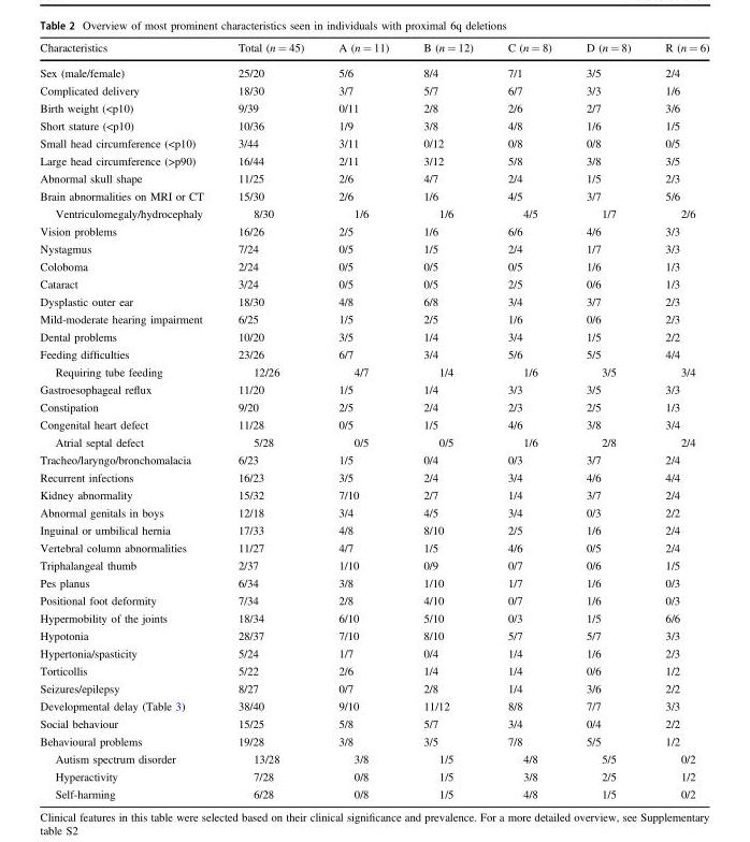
<table><thead><tr><td>Characteristics</td><td>Total (n = 45)</td><td>A (n = 11)</td><td>B (n = 12)</td><td>C (n = 8)</td><td>D (n = 8)</td><td>R (n = 6)</td></tr></thead><tbody><tr><td>Sex (male/female)</td><td>25/20</td><td>5/6</td><td>8/4</td><td>7/1</td><td>3/5</td><td>2/4</td></tr><tr><td>Complicated delivery</td><td>18/30</td><td>3/7</td><td>5/7</td><td>6/7</td><td>3/3</td><td>1/6</td></tr><tr><td>Birth weight (&lt;p10)</td><td>9/39</td><td>0/11</td><td>2/8</td><td>2/6</td><td>2/7</td><td>3/6</td></tr><tr><td>Short stature (&lt;p10)</td><td>10/36</td><td>1/9</td><td>3/8</td><td>4/8</td><td>1/6</td><td>1/5</td></tr><tr><td>Small head circumference (&lt;p10)</td><td>3/44</td><td>3/11</td><td>0/12</td><td>0/8</td><td>0/8</td><td>0/5</td></tr><tr><td>Large head circumference (&gt;p90)</td><td>16/44</td><td>2/11</td><td>3/12</td><td>5/8</td><td>3/8</td><td>3/5</td></tr><tr><td>Abnormal skull shape</td><td>11/25</td><td>2/6</td><td>4/7</td><td>2/4</td><td>1/5</td><td>2/3</td></tr><tr><td>Brain abnormalities on MRI or CT</td><td>15/30</td><td>2/6</td><td>1/6</td><td>4/5</td><td>3/7</td><td>5/6</td></tr><tr><td>Ventriculomegaly/hydrocephaly</td><td>8/30</td><td>1/6</td><td>1/6</td><td>4/5</td><td>1/7</td><td>2/6</td></tr><tr><td>Vision problems</td><td>16/26</td><td>2/5</td><td>1/6</td><td>6/6</td><td>4/6</td><td>3/3</td></tr><tr><td>Nystagmus</td><td>7/24</td><td>0/5</td><td>1/5</td><td>2/4</td><td>1/7</td><td>3/3</td></tr><tr><td>Coloboma</td><td>2/24</td><td>0/5</td><td>0/5</td><td>0/5</td><td>1/6</td><td>1/3</td></tr><tr><td>Cataract</td><td>3/24</td><td>0/5</td><td>0/5</td><td>2/5</td><td>0/6</td><td>1/3</td></tr><tr><td>Dysplastic outer ear</td><td>18/30</td><td>4/8</td><td>6/8</td><td>3/4</td><td>3/7</td><td>2/3</td></tr><tr><td>Mild-moderate hearing impairment</td><td>6/25</td><td>1/5</td><td>2/5</td><td>1/6</td><td>0/6</td><td>2/3</td></tr><tr><td>Dental problems</td><td>10/20</td><td>3/5</td><td>1/4</td><td>3/4</td><td>1/5</td><td>2/2</td></tr><tr><td>Feeding difficulties</td><td>23/26</td><td>6/7</td><td>3/4</td><td>5/6</td><td>5/5</td><td>4/4</td></tr><tr><td>Requiring tube feeding</td><td>12/26</td><td>4/7</td><td>1/4</td><td>1/6</td><td>3/5</td><td>3/4</td></tr><tr><td>Gastroesophageal reflux</td><td>11/20</td><td>1/5</td><td>1/4</td><td>3/3</td><td>3/5</td><td>3/3</td></tr><tr><td>Constipation</td><td>9/20</td><td>2/5</td><td>2/4</td><td>2/3</td><td>2/5</td><td>1/3</td></tr><tr><td>Congenital heart defect</td><td>11/28</td><td>0/5</td><td>1/5</td><td>4/6</td><td>3/8</td><td>3/4</td></tr><tr><td>Atrial septal defect</td><td>5/28</td><td>0/5</td><td>0/5</td><td>1/6</td><td>2/8</td><td>2/4</td></tr><tr><td>Tracheo/laryngo/bronchomalacia</td><td>6/23</td><td>1/5</td><td>0/4</td><td>0/3</td><td>3/7</td><td>2/4</td></tr><tr><td>Recurrent infections</td><td>16/23</td><td>3/5</td><td>2/4</td><td>3/4</td><td>4/6</td><td>4/4</td></tr><tr><td>Kidney abnormality</td><td>15/32</td><td>7/10</td><td>2/7</td><td>1/4</td><td>3/7</td><td>2/4</td></tr><tr><td>Abnormal genitals in boys</td><td>12/18</td><td>3/4</td><td>4/5</td><td>3/4</td><td>0/3</td><td>2/2</td></tr><tr><td>Inguinal or umbilical hernia</td><td>17/33</td><td>4/8</td><td>8/10</td><td>2/5</td><td>1/6</td><td>2/4</td></tr><tr><td>Vertebral column abnormalities</td><td>11/27</td><td>4/7</td><td>1/5</td><td>4/6</td><td>0/5</td><td>2/4</td></tr><tr><td>Triphalangeal thumb</td><td>2/37</td><td>1/10</td><td>0/9</td><td>0/7</td><td>0/6</td><td>1/5</td></tr><tr><td>Pes planus</td><td>6/34</td><td>3/8</td><td>1/10</td><td>1/7</td><td>1/6</td><td>0/3</td></tr><tr><td>Positional foot deformity</td><td>7/34</td><td>2/8</td><td>4/10</td><td>0/7</td><td>1/6</td><td>0/3</td></tr><tr><td>Hypermobility of the joints</td><td>18/34</td><td>6/10</td><td>5/10</td><td>0/3</td><td>1/5</td><td>6/6</td></tr><tr><td>Hypotonia</td><td>28/37</td><td>7/10</td><td>8/10</td><td>5/7</td><td>5/7</td><td>3/3</td></tr><tr><td>Hypertonia/spasticity</td><td>5/24</td><td>1/7</td><td>0/4</td><td>1/4</td><td>1/6</td><td>2/3</td></tr><tr><td>Torticollis</td><td>5/22</td><td>2/6</td><td>1/4</td><td>1/4</td><td>0/6</td><td>1/2</td></tr><tr><td>Seizures/epilepsy</td><td>8/27</td><td>0/7</td><td>2/8</td><td>1/4</td><td>3/6</td><td>2/2</td></tr><tr><td>Developmental delay (Table 3)</td><td>38/40</td><td>9/10</td><td>11/12</td><td>8/8</td><td>7/7</td><td>3/3</td></tr><tr><td>Social behaviour</td><td>15/25</td><td>5/8</td><td>5/7</td><td>3/4</td><td>0/4</td><td>2/2</td></tr><tr><td>Behavioural problems</td><td>19/28</td><td>3/8</td><td>3/5</td><td>7/8</td><td>5/5</td><td>1/2</td></tr><tr><td>Autism spectrum disorder</td><td>13/28</td><td>3/8</td><td>1/5</td><td>4/8</td><td>5/5</td><td>0/2</td></tr><tr><td>Hyperactivity</td><td>7/28</td><td>0/8</td><td>1/5</td><td>3/8</td><td>2/5</td><td>1/2</td></tr><tr><td>Self-harming</td><td>6/28</td><td>0/8</td><td>1/5</td><td>4/8</td><td>1/5</td><td>0/2</td></tr></tbody></table>